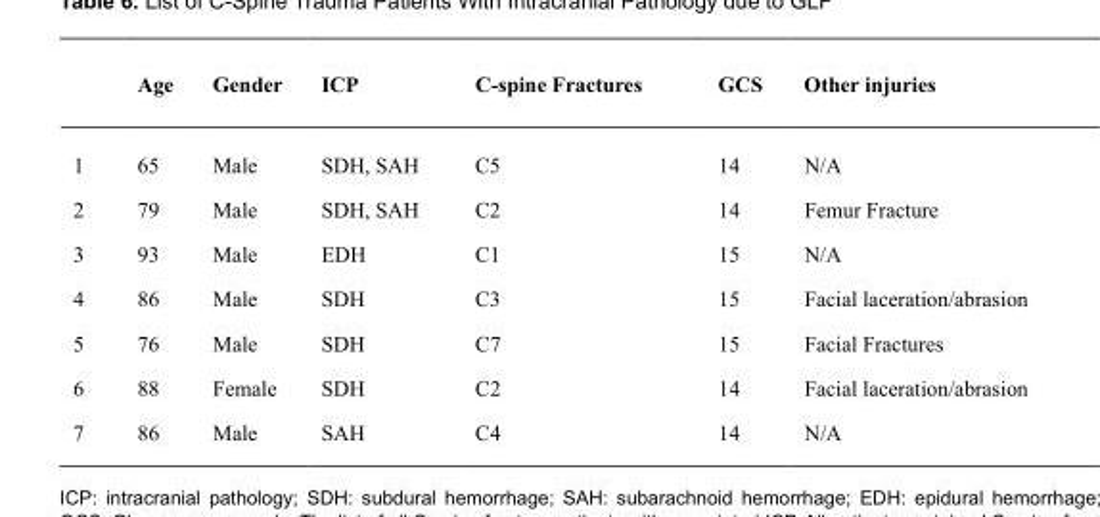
<table><thead><tr><td></td><td>Age</td><td>Gender</td><td>ICP</td><td>C-spine Fractures</td><td>GCS</td><td>Other injuries</td></tr></thead><tbody><tr><td>1</td><td>65</td><td>Male</td><td>SDH, SAH</td><td>C5</td><td>14</td><td>N/A</td></tr><tr><td>2</td><td>79</td><td>Male</td><td>SDH, SAH</td><td>C2</td><td>14</td><td>Femur Fracture</td></tr><tr><td>3</td><td>93</td><td>Male</td><td>EDH</td><td>C1</td><td>15</td><td>N/A</td></tr><tr><td>4</td><td>86</td><td>Male</td><td>SDH</td><td>C3</td><td>15</td><td>Facial laceration/abrasion</td></tr><tr><td>5</td><td>76</td><td>Male</td><td>SDH</td><td>C7</td><td>15</td><td>Facial Fractures</td></tr><tr><td>6</td><td>88</td><td>Female</td><td>SDH</td><td>C2</td><td>14</td><td>Facial laceration/abrasion</td></tr><tr><td>7</td><td>86</td><td>Male</td><td>SAH</td><td>C4</td><td>14</td><td>N/A</td></tr></tbody></table>